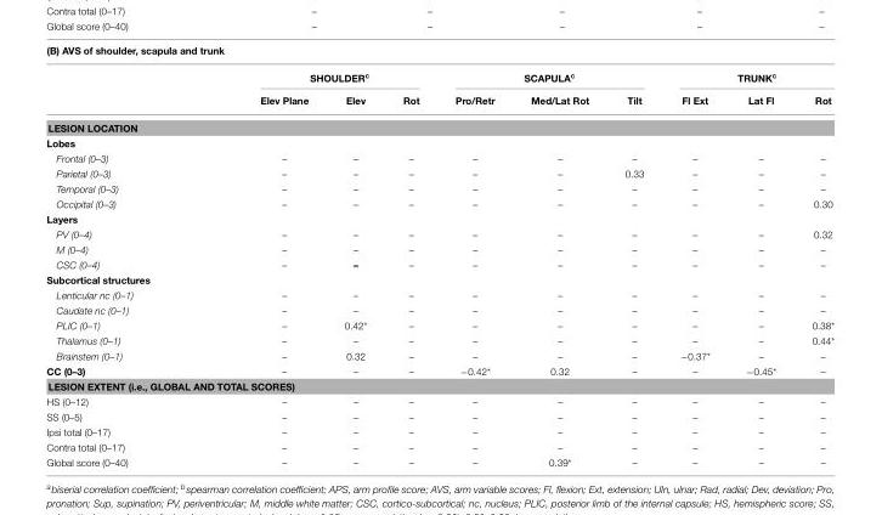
<table><thead><tr><td colspan="10">(B) AVS of shoulder, scapula and trunk</td></tr><tr><td rowspan="2"></td><td colspan="3">SHOULDER<sup>c</sup></td><td colspan="3">SCAPULA<sup>c</sup></td><td colspan="3">TRUNK<sup>c</sup></td></tr><tr><td>Elev Plane</td><td>Elev</td><td>Rot</td><td>Pro/Retr</td><td>Med/Lat Rot</td><td>Tilt</td><td>Fl Ext</td><td>Lat Fl</td><td>Rot</td></tr></thead><tbody><tr><td colspan="10">LESION LOCATION</td></tr><tr><td colspan="10">Lobes</td></tr><tr><td>Frontal (0–3)</td><td>–</td><td>–</td><td>–</td><td>–</td><td>–</td><td>–</td><td>–</td><td>–</td><td>–</td></tr><tr><td>Parietal (0–3)</td><td>–</td><td>–</td><td>–</td><td>–</td><td>–</td><td>0.33</td><td>–</td><td>–</td><td>–</td></tr><tr><td>Temporal (0–3)</td><td>–</td><td>–</td><td>–</td><td>–</td><td>–</td><td>–</td><td>–</td><td>–</td><td>–</td></tr><tr><td>Occipital (0–3)</td><td>–</td><td>–</td><td>–</td><td>–</td><td>–</td><td>–</td><td>–</td><td>–</td><td>0.30</td></tr><tr><td colspan="10">Layers</td></tr><tr><td>PV (0–4)</td><td>–</td><td>–</td><td>–</td><td>–</td><td>–</td><td>–</td><td>–</td><td>–</td><td>0.32</td></tr><tr><td>M (0–4)</td><td>–</td><td>–</td><td>–</td><td>–</td><td>–</td><td>–</td><td>–</td><td>–</td><td>–</td></tr><tr><td>CSC (0–4)</td><td>–</td><td>–</td><td>–</td><td>–</td><td>–</td><td>–</td><td>–</td><td>–</td><td>–</td></tr><tr><td colspan="10">Subcortical structures</td></tr><tr><td>Lenticular nc (0–1)</td><td>–</td><td>–</td><td>–</td><td>–</td><td>–</td><td>–</td><td>–</td><td>–</td><td>–</td></tr><tr><td>Caudate nc (0–1)</td><td>–</td><td>–</td><td>–</td><td>–</td><td>–</td><td>–</td><td>–</td><td>–</td><td>–</td></tr><tr><td>PLIC (0–1)</td><td>–</td><td>0.42*</td><td>–</td><td>–</td><td>–</td><td>–</td><td>–</td><td>–</td><td>0.38*</td></tr><tr><td>Thalamus (0–1)</td><td>–</td><td>–</td><td>–</td><td>–</td><td>–</td><td>–</td><td>–</td><td>–</td><td>0.44*</td></tr><tr><td>Brainstem (0–1)</td><td>–</td><td>0.32</td><td>–</td><td>–</td><td>–</td><td>–</td><td>−0.37*</td><td>–</td><td>–</td></tr><tr><td>CC (0–3)</td><td>–</td><td>–</td><td>–</td><td>−0.42*</td><td>0.32</td><td>–</td><td>–</td><td>−0.45*</td><td>–</td></tr><tr><td colspan="10">LESION EXTENT (i.e., GLOBAL AND TOTAL SCORES)</td></tr><tr><td>HS (0–12)</td><td>–</td><td>–</td><td>–</td><td>–</td><td>–</td><td>–</td><td>–</td><td>–</td><td>–</td></tr><tr><td>SS (0–5)</td><td>–</td><td>–</td><td>–</td><td>–</td><td>–</td><td>–</td><td>–</td><td>–</td><td>–</td></tr><tr><td>Ipsi total (0–17)</td><td>–</td><td>–</td><td>–</td><td>–</td><td>–</td><td>–</td><td>–</td><td>–</td><td>–</td></tr><tr><td>Contra total (0–17)</td><td>–</td><td>–</td><td>–</td><td>–</td><td>–</td><td>–</td><td>–</td><td>–</td><td>–</td></tr><tr><td>Global score (0–40)</td><td>–</td><td>–</td><td>–</td><td>–</td><td>0.39*</td><td>–</td><td>–</td><td>–</td><td>–</td></tr></tbody></table>